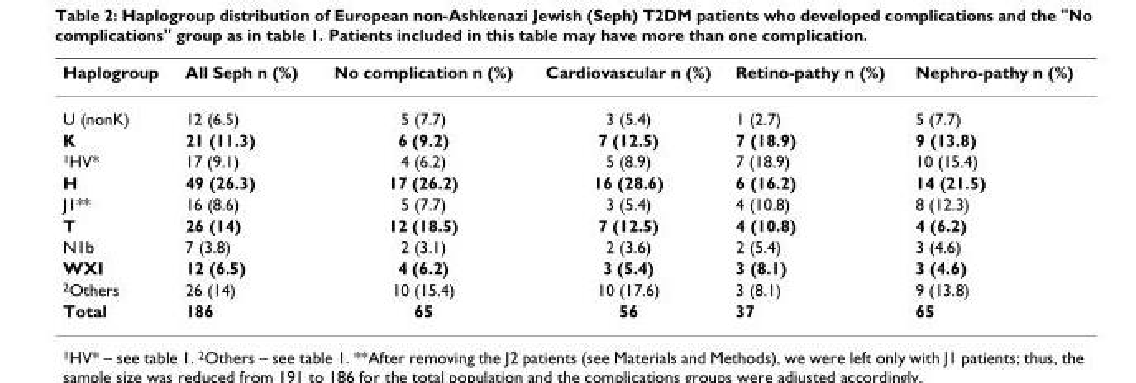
<table><thead><tr><td>Haplogroup</td><td>All Seph n (%)</td><td>No complication n (%)</td><td>Cardiovascular n (%)</td><td>Retino-pathy n (%)</td><td>Nephro-pathy n (%)</td></tr></thead><tbody><tr><td>U (nonK)</td><td>12 (6.5)</td><td>5 (7.7)</td><td>3 (5.4)</td><td>1 (2.7)</td><td>5 (7.7)</td></tr><tr><td>K</td><td>21 (11.3)</td><td>6 (9.2)</td><td>7 (12.5)</td><td>7 (18.9)</td><td>9 (13.8)</td></tr><tr><td><sup>1</sup>HV*</td><td>17 (9.1)</td><td>4 (6.2)</td><td>5 (8.9)</td><td>7 (18.9)</td><td>10 (15.4)</td></tr><tr><td>H</td><td>49 (26.3)</td><td>17 (26.2)</td><td>16 (28.6)</td><td>6 (16.2)</td><td>14 (21.5)</td></tr><tr><td>J1**</td><td>16 (8.6)</td><td>5 (7.7)</td><td>3 (5.4)</td><td>4 (10.8)</td><td>8 (12.3)</td></tr><tr><td>T</td><td>26 (14)</td><td>12 (18.5)</td><td>7 (12.5)</td><td>4 (10.8)</td><td>4 (6.2)</td></tr><tr><td>N1b</td><td>7 (3.8)</td><td>2 (3.1)</td><td>2 (3.6)</td><td>2 (5.4)</td><td>3 (4.6)</td></tr><tr><td>WXI</td><td>12 (6.5)</td><td>4 (6.2)</td><td>3 (5.4)</td><td>3 (8.1)</td><td>3 (4.6)</td></tr><tr><td><sup>2</sup>Others</td><td>26 (14)</td><td>10 (15.4)</td><td>10 (17.6)</td><td>3 (8.1)</td><td>9 (13.8)</td></tr><tr><td>Total</td><td>186</td><td>65</td><td>56</td><td>37</td><td>65</td></tr></tbody></table>